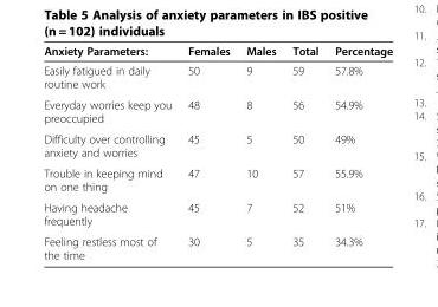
<table><thead><tr><td>Anxiety Parameters:</td><td>Females</td><td>Males</td><td>Total</td><td>Percentage</td></tr></thead><tbody><tr><td>Easily fatigued in daily routine work</td><td>50</td><td>9</td><td>59</td><td>57.8%</td></tr><tr><td>Everyday worries keep you preoccupied</td><td>48</td><td>8</td><td>56</td><td>54.9%</td></tr><tr><td>Difficulty over controlling anxiety and worries</td><td>45</td><td>5</td><td>50</td><td>49%</td></tr><tr><td>Trouble in keeping mind on one thing</td><td>47</td><td>10</td><td>57</td><td>55.9%</td></tr><tr><td>Having headache frequently</td><td>45</td><td>7</td><td>52</td><td>51%</td></tr><tr><td>Feeling restless most of the time</td><td>30</td><td>5</td><td>35</td><td>34.3%</td></tr></tbody></table>